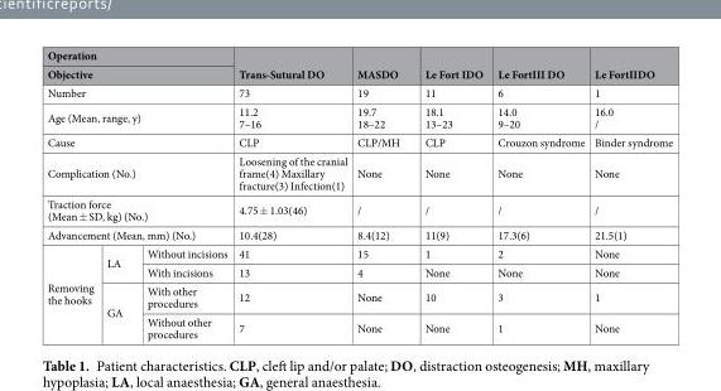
<table><thead><tr><td rowspan="2" colspan="3">Operation Objective</td><td rowspan="2">Trans-Sutural DO</td><td rowspan="2">MASDO</td><td rowspan="2">Le Fort IDO</td><td rowspan="2">Le FortIII DO</td><td rowspan="2">Le FortIIDO</td></tr><tr></tr></thead><tbody><tr><td colspan="3">Number</td><td>73</td><td>19</td><td>11</td><td>6</td><td>1</td></tr><tr><td colspan="3">Age (Mean, range, y)</td><td>11.2 7–16</td><td>19.7 18–22</td><td>18.1 13–23</td><td>14.0 9–20</td><td>16.0 /</td></tr><tr><td colspan="3">Cause</td><td>CLP</td><td>CLP/MH</td><td>CLP</td><td>Crouzon syndrome</td><td>Binder syndrome</td></tr><tr><td colspan="3">Complication (No.)</td><td>Loosening of the cranial frame(4) Maxillary fracture(3) Infection(1)</td><td>None</td><td>None</td><td>None</td><td>None</td></tr><tr><td colspan="3">Traction force (Mean ± SD, kg) (No.)</td><td>4.75 ± 1.03(46)</td><td>/</td><td>/</td><td>/</td><td>/</td></tr><tr><td colspan="3">Advancement (Mean, mm) (No.)</td><td>10.4(28)</td><td>8.4(12)</td><td>11(9)</td><td>17.3(6)</td><td>21.5(1)</td></tr><tr><td rowspan="4">Removing the hooks</td><td rowspan="2">LA</td><td>Without incisions</td><td>41</td><td>15</td><td>1</td><td>2</td><td>None</td></tr><tr><td>With incisions</td><td>13</td><td>4</td><td>None</td><td>None</td><td>None</td></tr><tr><td rowspan="2">GA</td><td>With other procedures</td><td>12</td><td>None</td><td>10</td><td>3</td><td>1</td></tr><tr><td>Without other procedures</td><td>7</td><td>None</td><td>None</td><td>1</td><td>None</td></tr></tbody></table>